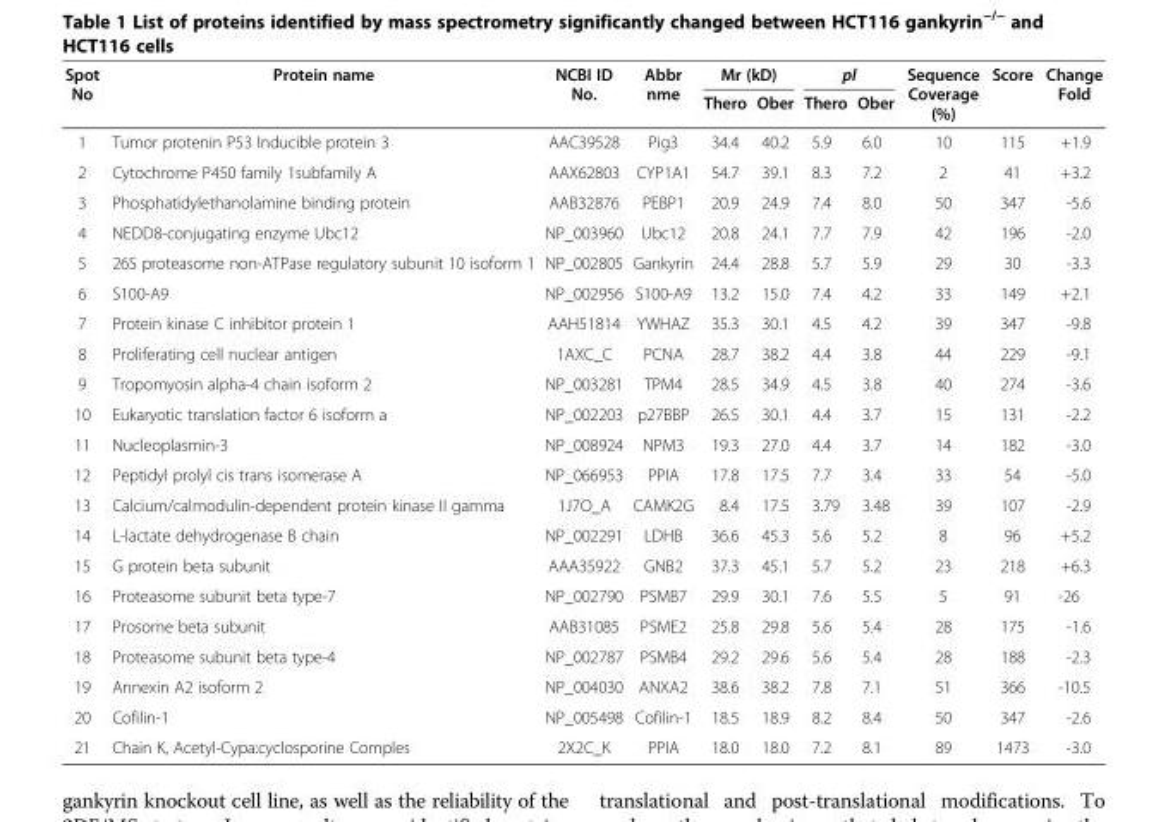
<table><thead><tr><td rowspan="2">Spot No</td><td rowspan="2">Protein name</td><td rowspan="2">NCBI ID No.</td><td rowspan="2">Abbr nme</td><td colspan="2">Mr (kD)</td><td colspan="2">pl</td><td rowspan="2">Sequence Coverage (%)</td><td rowspan="2">Score</td><td rowspan="2">Change Fold</td></tr><tr><td>Thero</td><td>Ober</td><td>Thero</td><td>Ober</td></tr></thead><tbody><tr><td>1</td><td>Tumor protenin P53 Inducible protein 3</td><td>AAC39528</td><td>Pig3</td><td>34.4</td><td>40.2</td><td>5.9</td><td>6.0</td><td>10</td><td>115</td><td>+1.9</td></tr><tr><td>2</td><td>Cytochrome P450 family 1subfamily A</td><td>AAX62803</td><td>CYP1A1</td><td>54.7</td><td>39.1</td><td>8.3</td><td>7.2</td><td>2</td><td>41</td><td>+3.2</td></tr><tr><td>3</td><td>Phosphatidylethanolamine binding protein</td><td>AAB32876</td><td>PEBP1</td><td>20.9</td><td>24.9</td><td>7.4</td><td>8.0</td><td>50</td><td>347</td><td>-5.6</td></tr><tr><td>4</td><td>NEDD8-conjugating enzyme Ubc12</td><td>NP_003960</td><td>Ubc12</td><td>20.8</td><td>24.1</td><td>7.7</td><td>7.9</td><td>42</td><td>196</td><td>-2.0</td></tr><tr><td>5</td><td>26S proteasome non-ATPase regulatory subunit 10 isoform 1</td><td>NP_002805</td><td>Gankyrin</td><td>24.4</td><td>28.8</td><td>5.7</td><td>5.9</td><td>29</td><td>30</td><td>-3.3</td></tr><tr><td>6</td><td>S100-A9</td><td>NP_002956</td><td>S100-A9</td><td>13.2</td><td>15.0</td><td>7.4</td><td>4.2</td><td>33</td><td>149</td><td>+2.1</td></tr><tr><td>7</td><td>Protein kinase C inhibitor protein 1</td><td>AAH51814</td><td>YWHAZ</td><td>35.3</td><td>30.1</td><td>4.5</td><td>4.2</td><td>39</td><td>347</td><td>-9.8</td></tr><tr><td>8</td><td>Proliferating cell nuclear antigen</td><td>1AXC_C</td><td>PCNA</td><td>28.7</td><td>38.2</td><td>4.4</td><td>3.8</td><td>44</td><td>229</td><td>-9.1</td></tr><tr><td>9</td><td>Tropomyosin alpha-4 chain isoform 2</td><td>NP_003281</td><td>TPM4</td><td>28.5</td><td>34.9</td><td>4.5</td><td>3.8</td><td>40</td><td>274</td><td>-3.6</td></tr><tr><td>10</td><td>Eukaryotic translation factor 6 isoform a</td><td>NP_002203</td><td>p27BBP</td><td>26.5</td><td>30.1</td><td>4.4</td><td>3.7</td><td>15</td><td>131</td><td>-2.2</td></tr><tr><td>11</td><td>Nucleoplasmin-3</td><td>NP_008924</td><td>NPM3</td><td>19.3</td><td>27.0</td><td>4.4</td><td>3.7</td><td>14</td><td>182</td><td>-3.0</td></tr><tr><td>12</td><td>Peptidyl prolyl cis trans isomerase A</td><td>NP_066953</td><td>PPIA</td><td>17.8</td><td>17.5</td><td>7.7</td><td>3.4</td><td>33</td><td>54</td><td>-5.0</td></tr><tr><td>13</td><td>Calcium/calmodulin-dependent protein kinase II gamma</td><td>1J7O_A</td><td>CAMK2G</td><td>8.4</td><td>17.5</td><td>3.79</td><td>3.48</td><td>39</td><td>107</td><td>-2.9</td></tr><tr><td>14</td><td>L-lactate dehydrogenase B chain</td><td>NP_002291</td><td>LDHB</td><td>36.6</td><td>45.3</td><td>5.6</td><td>5.2</td><td>8</td><td>96</td><td>+5.2</td></tr><tr><td>15</td><td>G protein beta subunit</td><td>AAA35922</td><td>GNB2</td><td>37.3</td><td>45.1</td><td>5.7</td><td>5.2</td><td>23</td><td>218</td><td>+6.3</td></tr><tr><td>16</td><td>Proteasome subunit beta type-7</td><td>NP_002790</td><td>PSMB7</td><td>29.9</td><td>30.1</td><td>7.6</td><td>5.5</td><td>5</td><td>91</td><td>-26</td></tr><tr><td>17</td><td>Prosome beta subunit</td><td>AAB31085</td><td>PSME2</td><td>25.8</td><td>29.8</td><td>5.6</td><td>5.4</td><td>28</td><td>175</td><td>-1.6</td></tr><tr><td>18</td><td>Proteasome subunit beta type-4</td><td>NP_002787</td><td>PSMB4</td><td>29.2</td><td>29.6</td><td>5.6</td><td>5.4</td><td>28</td><td>188</td><td>-2.3</td></tr><tr><td>19</td><td>Annexin A2 isoform 2</td><td>NP_004030</td><td>ANXA2</td><td>38.6</td><td>38.2</td><td>7.8</td><td>7.1</td><td>51</td><td>366</td><td>-10.5</td></tr><tr><td>20</td><td>Cofilin-1</td><td>NP_005498</td><td>Cofilin-1</td><td>18.5</td><td>18.9</td><td>8.2</td><td>8.4</td><td>50</td><td>347</td><td>-2.6</td></tr><tr><td>21</td><td>Chain K, Acetyl-Cypa:cyclosporine Comples</td><td>2X2C_K</td><td>PPIA</td><td>18.0</td><td>18.0</td><td>7.2</td><td>8.1</td><td>89</td><td>1473</td><td>-3.0</td></tr></tbody></table>